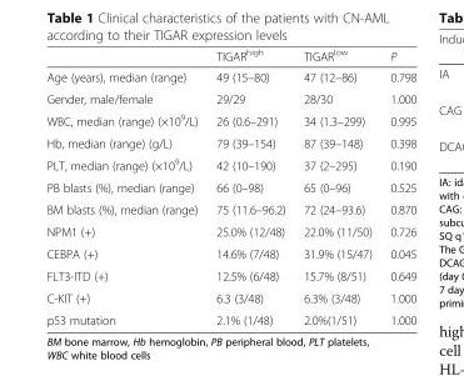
<table><thead><tr><td></td><td>TIGAR<sup>high</sup></td><td>TIGAR<sup>low</sup></td><td>P</td></tr></thead><tbody><tr><td>Age (years), median (range)</td><td>49 (15–80)</td><td>47 (12–86)</td><td>0.798</td></tr><tr><td>Gender, male/female</td><td>29/29</td><td>28/30</td><td>1.000</td></tr><tr><td>WBC, median (range) (×10<sup>9</sup>/L)</td><td>26 (0.6–291)</td><td>34 (1.3–299)</td><td>0.995</td></tr><tr><td>Hb, median (range) (g/L)</td><td>79 (39–154)</td><td>87 (39–148)</td><td>0.398</td></tr><tr><td>PLT, median (range) (×10<sup>9</sup>/L)</td><td>42 (10–190)</td><td>37 (2–295)</td><td>0.190</td></tr><tr><td>PB blasts (%), median (range)</td><td>66 (0–98)</td><td>65 (0–96)</td><td>0.525</td></tr><tr><td>BM blasts (%), median (range)</td><td>75 (11.6–96.2)</td><td>72 (24–93.6)</td><td>0.870</td></tr><tr><td>NPM1 (+)</td><td>25.0% (12/48)</td><td>22.0% (11/50)</td><td>0.726</td></tr><tr><td>CEBPA (+)</td><td>14.6% (7/48)</td><td>31.9% (15/47)</td><td>0.045</td></tr><tr><td>FLT3-ITD (+)</td><td>12.5% (6/48)</td><td>15.7% (8/51)</td><td>0.649</td></tr><tr><td>C-KIT (+)</td><td>6.3 (3/48)</td><td>6.3% (3/48)</td><td>1.000</td></tr><tr><td>p53 mutation</td><td>2.1% (1/48)</td><td>2.0%(1/51)</td><td>1.000</td></tr></tbody></table>